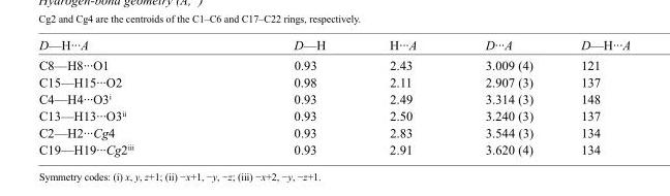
<table><tbody><tr><td>D—H···A</td><td>D—H</td><td>H···A</td><td>D···A</td><td>D—H···A</td></tr><tr><td>C8—H8···O1</td><td>0.93</td><td>2.43</td><td>3.009 (4)</td><td>121</td></tr><tr><td>C15—H15···O2</td><td>0.98</td><td>2.11</td><td>2.907 (3)</td><td>137</td></tr><tr><td>C4—H4···O3<sup>i</sup></td><td>0.93</td><td>2.49</td><td>3.314 (3)</td><td>148</td></tr><tr><td>C13—H13···O3<sup>ii</sup></td><td>0.93</td><td>2.50</td><td>3.240 (3)</td><td>137</td></tr><tr><td>C2—H2···Cg4</td><td>0.93</td><td>2.83</td><td>3.544 (3)</td><td>134</td></tr><tr><td>C19—H19···Cg2<sup>iii</sup></td><td>0.93</td><td>2.91</td><td>3.620 (4)</td><td>134</td></tr></tbody></table>